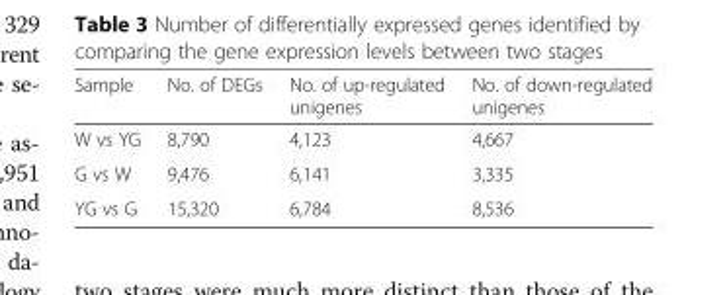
<table><thead><tr><td>Sample</td><td>No. of DEGs</td><td>No. of up-regulated unigenes</td><td>No. of down-regulated unigenes</td></tr></thead><tbody><tr><td>W vs YG</td><td>8,790</td><td>4,123</td><td>4,667</td></tr><tr><td>G vs W</td><td>9,476</td><td>6,141</td><td>3,335</td></tr><tr><td>YG vs G</td><td>15,320</td><td>6,784</td><td>8,536</td></tr></tbody></table>